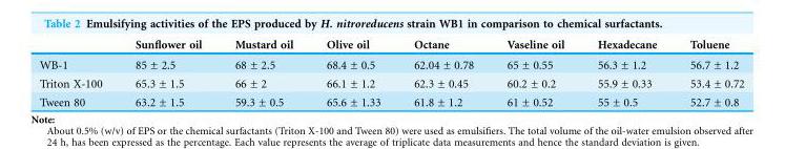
<table><thead><tr><td></td><td>Sunflower oil</td><td>Mustard oil</td><td>Olive oil</td><td>Octane</td><td>Vaseline oil</td><td>Hexadecane</td><td>Toluene</td></tr></thead><tbody><tr><td>WB-1</td><td>85 ± 2.5</td><td>68 ± 2.5</td><td>68.4 ± 0.5</td><td>62.04 ± 0.78</td><td>65 ± 0.55</td><td>56.3 ± 1.2</td><td>56.7 ± 1.2</td></tr><tr><td>Triton X-100</td><td>65.3 ± 1.5</td><td>66 ± 2</td><td>66.1 ± 1.2</td><td>62.3 ± 0.45</td><td>60.2 ± 0.2</td><td>55.9 ± 0.33</td><td>53.4 ± 0.72</td></tr><tr><td>Tween 80</td><td>63.2 ± 1.5</td><td>59.3 ± 0.5</td><td>65.6 ± 1.33</td><td>61.8 ± 1.2</td><td>61 ± 0.52</td><td>55 ± 0.5</td><td>52.7 ± 0.8</td></tr></tbody></table>